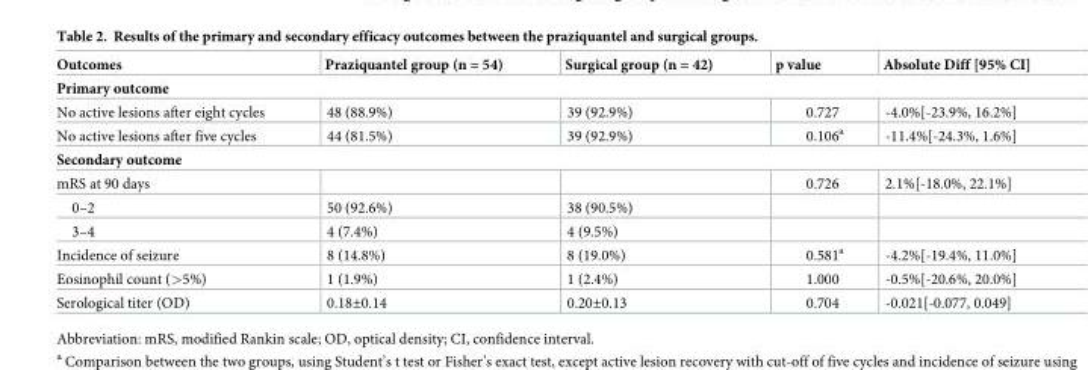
<table><thead><tr><td>Outcomes</td><td>Praziquantel group (n = 54)</td><td>Surgical group (n = 42)</td><td>p value</td><td>Absolute Diff [95% CI]</td></tr></thead><tbody><tr><td colspan="5">Primary outcome</td></tr><tr><td>No active lesions after eight cycles</td><td>48 (88.9%)</td><td>39 (92.9%)</td><td>0.727</td><td>-4.0%[-23.9%, 16.2%]</td></tr><tr><td>No active lesions after five cycles</td><td>44 (81.5%)</td><td>39 (92.9%)</td><td>0.106<sup>a</sup></td><td>-11.4%[-24.3%, 1.6%]</td></tr><tr><td colspan="5">Secondary outcome</td></tr><tr><td>mRS at 90 days</td><td></td><td></td><td>0.726</td><td>2.1%[-18.0%, 22.1%]</td></tr><tr><td>0–2</td><td>50 (92.6%)</td><td>38 (90.5%)</td><td></td><td></td></tr><tr><td>3–4</td><td>4 (7.4%)</td><td>4 (9.5%)</td><td></td><td></td></tr><tr><td>Incidence of seizure</td><td>8 (14.8%)</td><td>8 (19.0%)</td><td>0.581<sup>a</sup></td><td>-4.2%[-19.4%, 11.0%]</td></tr><tr><td>Eosinophil count (&gt;5%)</td><td>1 (1.9%)</td><td>1 (2.4%)</td><td>1.000</td><td>-0.5%[-20.6%, 20.0%]</td></tr><tr><td>Serological titer (OD)</td><td>0.18±0.14</td><td>0.20±0.13</td><td>0.704</td><td>-0.021[-0.077, 0.049]</td></tr></tbody></table>